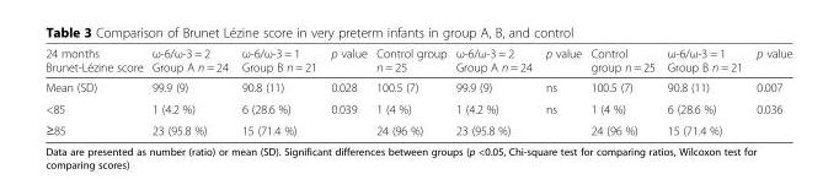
<table><thead><tr><td>24 months Brunet-Lézine score</td><td>ω-6/ω-3 = 2 Group A n = 24</td><td>ω-6/ω-3 = 1 Group B n = 21</td><td>p value</td><td>Control group n = 25</td><td>ω-6/ω-3 = 2 Group A n = 24</td><td>p value</td><td>Control group n = 25</td><td>ω-6/ω-3 = 1 Group B n = 21</td><td>p value</td></tr></thead><tbody><tr><td>Mean (SD)</td><td>99.9 (9)</td><td>90.8 (11)</td><td>0.028</td><td>100.5 (7)</td><td>99.9 (9)</td><td>ns</td><td>100.5 (7)</td><td>90.8 (11)</td><td>0.007</td></tr><tr><td>&lt;85</td><td>1 (4.2 %)</td><td>6 (28.6 %)</td><td rowspan="2">0.039</td><td>1 (4 %)</td><td>1 (4.2 %)</td><td>ns</td><td>1 (4 %)</td><td>6 (28.6 %)</td><td rowspan="2">0.036</td></tr><tr><td>≥85</td><td>23 (95.8 %)</td><td>15 (71.4 %)</td><td>24 (96 %)</td><td>23 (95.8 %)</td><td></td><td>24 (96 %)</td><td>15 (71.4 %)</td></tr></tbody></table>